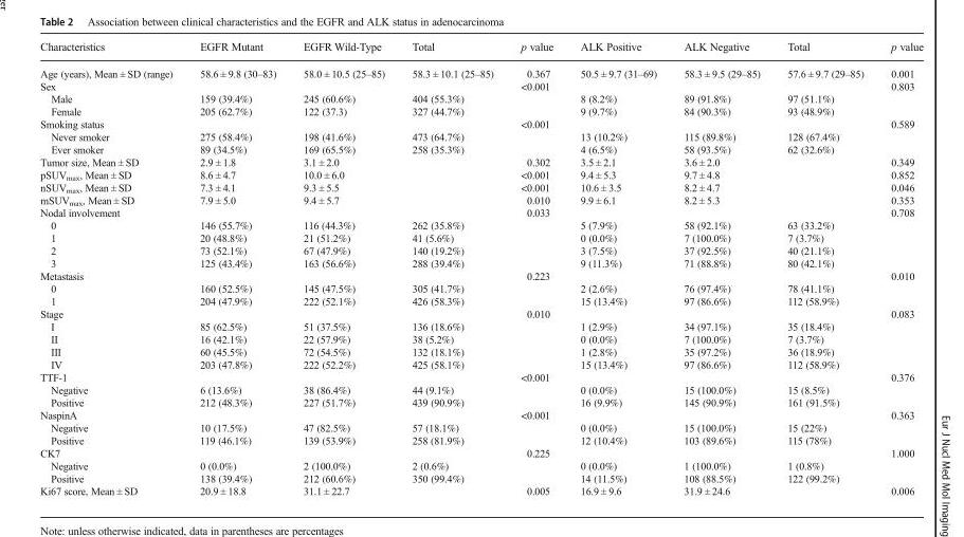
<table><thead><tr><td>Characteristics</td><td>EGFR Mutant</td><td>EGFR Wild-Type</td><td>Total</td><td>p value</td><td>ALK Positive</td><td>ALK Negative</td><td>Total</td><td>p value</td></tr></thead><tbody><tr><td>Age (years), Mean ± SD (range)</td><td>58.6 ± 9.8 (30–83)</td><td>58.0 ± 10.5 (25–85)</td><td>58.3 ± 10.1 (25–85)</td><td>0.367</td><td>50.5 ± 9.7 (31–69)</td><td>58.3 ± 9.5 (29–85)</td><td>57.6 ± 9.7 (29–85)</td><td>0.001</td></tr><tr><td>Sex</td><td></td><td></td><td></td><td>&lt;0.001</td><td></td><td></td><td></td><td>0.803</td></tr><tr><td>Male</td><td>159 (39.4%)</td><td>245 (60.6%)</td><td>404 (55.3%)</td><td></td><td>8 (8.2%)</td><td>89 (91.8%)</td><td>97 (51.1%)</td><td></td></tr><tr><td>Female</td><td>205 (62.7%)</td><td>122 (37.3)</td><td>327 (44.7%)</td><td></td><td>9 (9.7%)</td><td>84 (90.3%)</td><td>93 (48.9%)</td><td></td></tr><tr><td>Smoking status</td><td></td><td></td><td></td><td>&lt;0.001</td><td></td><td></td><td></td><td>0.589</td></tr><tr><td>Never smoker</td><td>275 (58.4%)</td><td>198 (41.6%)</td><td>473 (64.7%)</td><td></td><td>13 (10.2%)</td><td>115 (89.8%)</td><td>128 (67.4%)</td><td></td></tr><tr><td>Ever smoker</td><td>89 (34.5%)</td><td>169 (65.5%)</td><td>258 (35.3%)</td><td></td><td>4 (6.5%)</td><td>58 (93.5%)</td><td>62 (32.6%)</td><td></td></tr><tr><td>Tumor size, Mean ± SD</td><td>2.9 ± 1.8</td><td>3.1 ± 2.0</td><td></td><td>0.302</td><td>3.5 ± 2.1</td><td>3.6 ± 2.0</td><td></td><td>0.349</td></tr><tr><td>pSUV<sub>max</sub>, Mean ± SD</td><td>8.6 ± 4.7</td><td>10.0 ± 6.0</td><td></td><td>&lt;0.001</td><td>9.4 ± 5.3</td><td>9.7 ± 4.8</td><td></td><td>0.852</td></tr><tr><td>nSUV<sub>max</sub>, Mean ± SD</td><td>7.3 ± 4.1</td><td>9.3 ± 5.5</td><td></td><td>&lt;0.001</td><td>10.6 ± 3.5</td><td>8.2 ± 4.7</td><td></td><td>0.046</td></tr><tr><td>mSUV<sub>max</sub>, Mean ± SD</td><td>7.9 ± 5.0</td><td>9.4 ± 5.7</td><td></td><td>0.010</td><td>9.9 ± 6.1</td><td>8.2 ± 5.3</td><td></td><td>0.353</td></tr><tr><td>Nodal involvement</td><td></td><td></td><td></td><td>0.033</td><td></td><td></td><td></td><td>0.708</td></tr><tr><td>0</td><td>146 (55.7%)</td><td>116 (44.3%)</td><td>262 (35.8%)</td><td></td><td>5 (7.9%)</td><td>58 (92.1%)</td><td>63 (33.2%)</td><td></td></tr><tr><td>1</td><td>20 (48.8%)</td><td>21 (51.2%)</td><td>41 (5.6%)</td><td></td><td>0 (0.0%)</td><td>7 (100.0%)</td><td>7 (3.7%)</td><td></td></tr><tr><td>2</td><td>73 (52.1%)</td><td>67 (47.9%)</td><td>140 (19.2%)</td><td></td><td>3 (7.5%)</td><td>37 (92.5%)</td><td>40 (21.1%)</td><td></td></tr><tr><td>3</td><td>125 (43.4%)</td><td>163 (56.6%)</td><td>288 (39.4%)</td><td></td><td>9 (11.3%)</td><td>71 (88.8%)</td><td>80 (42.1%)</td><td></td></tr><tr><td>Metastasis</td><td></td><td></td><td></td><td>0.223</td><td></td><td></td><td></td><td>0.010</td></tr><tr><td>0</td><td>160 (52.5%)</td><td>145 (47.5%)</td><td>305 (41.7%)</td><td></td><td>2 (2.6%)</td><td>76 (97.4%)</td><td>78 (41.1%)</td><td></td></tr><tr><td>1</td><td>204 (47.9%)</td><td>222 (52.1%)</td><td>426 (58.3%)</td><td></td><td>15 (13.4%)</td><td>97 (86.6%)</td><td>112 (58.9%)</td><td></td></tr><tr><td>Stage</td><td></td><td></td><td></td><td>0.010</td><td></td><td></td><td></td><td>0.083</td></tr><tr><td>I</td><td>85 (62.5%)</td><td>51 (37.5%)</td><td>136 (18.6%)</td><td></td><td>1 (2.9%)</td><td>34 (97.1%)</td><td>35 (18.4%)</td><td></td></tr><tr><td>II</td><td>16 (42.1%)</td><td>22 (57.9%)</td><td>38 (5.2%)</td><td></td><td>0 (0.0%)</td><td>7 (100.0%)</td><td>7 (3.7%)</td><td></td></tr><tr><td>III</td><td>60 (45.5%)</td><td>72 (54.5%)</td><td>132 (18.1%)</td><td></td><td>1 (2.8%)</td><td>35 (97.2%)</td><td>36 (18.9%)</td><td></td></tr><tr><td>IV</td><td>203 (47.8%)</td><td>222 (52.2%)</td><td>425 (58.1%)</td><td></td><td>15 (13.4%)</td><td>97 (86.6%)</td><td>112 (58.9%)</td><td></td></tr><tr><td>TTF-1</td><td></td><td></td><td></td><td>&lt;0.001</td><td></td><td></td><td></td><td>0.376</td></tr><tr><td>Negative</td><td>6 (13.6%)</td><td>38 (86.4%)</td><td>44 (9.1%)</td><td></td><td>0 (0.0%)</td><td>15 (100.0%)</td><td>15 (8.5%)</td><td></td></tr><tr><td>Positive</td><td>212 (48.3%)</td><td>227 (51.7%)</td><td>439 (90.9%)</td><td></td><td>16 (9.9%)</td><td>145 (90.9%)</td><td>161 (91.5%)</td><td></td></tr><tr><td>NaspinA</td><td></td><td></td><td></td><td>&lt;0.001</td><td></td><td></td><td></td><td>0.363</td></tr><tr><td>Negative</td><td>10 (17.5%)</td><td>47 (82.5%)</td><td>57 (18.1%)</td><td></td><td>0 (0.0%)</td><td>15 (100.0%)</td><td>15 (22%)</td><td></td></tr><tr><td>Positive</td><td>119 (46.1%)</td><td>139 (53.9%)</td><td>258 (81.9%)</td><td></td><td>12 (10.4%)</td><td>103 (89.6%)</td><td>115 (78%)</td><td></td></tr><tr><td>CK7</td><td></td><td></td><td></td><td>0.225</td><td></td><td></td><td></td><td>1.000</td></tr><tr><td>Negative</td><td>0 (0.0%)</td><td>2 (100.0%)</td><td>2 (0.6%)</td><td></td><td>0 (0.0%)</td><td>1 (100.0%)</td><td>1 (0.8%)</td><td></td></tr><tr><td>Positive</td><td>138 (39.4%)</td><td>212 (60.6%)</td><td>350 (99.4%)</td><td></td><td>14 (11.5%)</td><td>108 (88.5%)</td><td>122 (99.2%)</td><td></td></tr><tr><td>Ki67 score, Mean ± SD</td><td>20.9 ± 18.8</td><td>31.1 ± 22.7</td><td></td><td>0.005</td><td>16.9 ± 9.6</td><td>31.9 ± 24.6</td><td></td><td>0.006</td></tr></tbody></table>